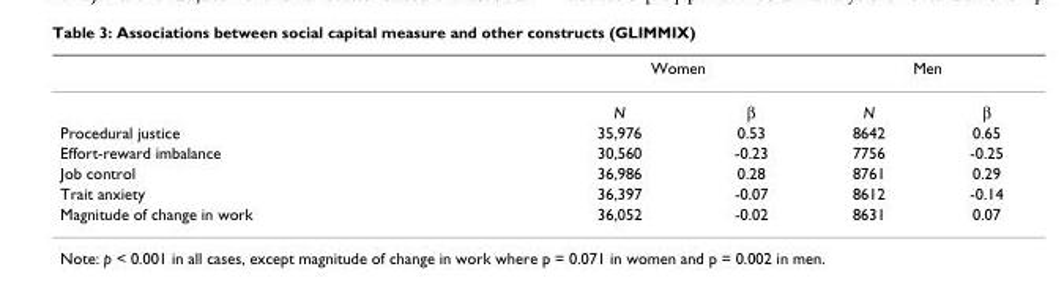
<table><thead><tr><td rowspan="2"></td><td colspan="2">Women</td><td colspan="2">Men</td></tr><tr><td>N</td><td>β</td><td>N</td><td>β</td></tr></thead><tbody><tr><td>Procedural justice</td><td>35,976</td><td>0.53</td><td>8642</td><td>0.65</td></tr><tr><td>Effort-reward imbalance</td><td>30,560</td><td>-0.23</td><td>7756</td><td>-0.25</td></tr><tr><td>Job control</td><td>36,986</td><td>0.28</td><td>8761</td><td>0.29</td></tr><tr><td>Trait anxiety</td><td>36,397</td><td>-0.07</td><td>8612</td><td>-0.14</td></tr><tr><td>Magnitude of change in work</td><td>36,052</td><td>-0.02</td><td>8631</td><td>0.07</td></tr></tbody></table>